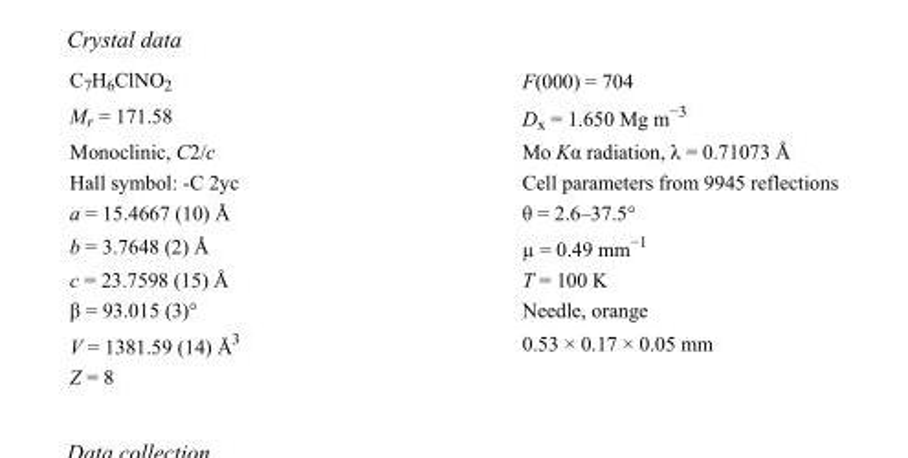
<table><tbody><tr><td>C<sub>7</sub>H<sub>6</sub>ClNO<sub>2</sub></td><td>F(000) = 704</td></tr><tr><td>M<sub>r</sub> = 171.58</td><td>D<sub>x</sub> = 1.650 Mg m<sup>−3</sup></td></tr><tr><td>Monoclinic, C2/c</td><td>Mo Kα radiation, λ = 0.71073 Å</td></tr><tr><td>Hall symbol: -C 2yc</td><td>Cell parameters from 9945 reflections</td></tr><tr><td>a = 15.4667 (10) Å</td><td>θ = 2.6–37.5°</td></tr><tr><td>b = 3.7648 (2) Å</td><td>µ = 0.49 mm<sup>−1</sup></td></tr><tr><td>c = 23.7598 (15) Å</td><td>T = 100 K</td></tr><tr><td>β = 93.015 (3)°</td><td>Needle, orange</td></tr><tr><td>V = 1381.59 (14) Å<sup>3</sup></td><td>0.53 × 0.17 × 0.05 mm</td></tr><tr><td>Z = 8</td><td></td></tr></tbody></table>